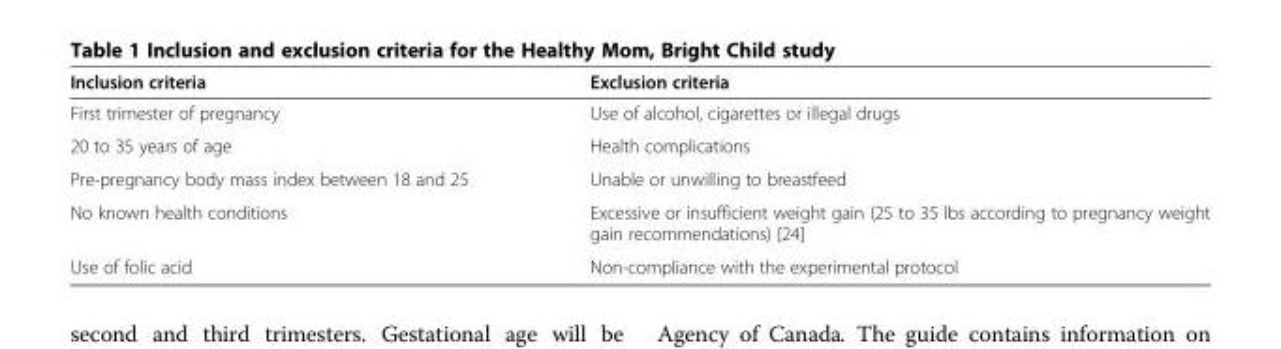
<table><thead><tr><td>Inclusion criteria</td><td>Exclusion criteria</td></tr></thead><tbody><tr><td>First trimester of pregnancy</td><td>Use of alcohol, cigarettes or illegal drugs</td></tr><tr><td>20 to 35 years of age</td><td>Health complications</td></tr><tr><td>Pre-pregnancy body mass index between 18 and 25</td><td>Unable or unwilling to breastfeed</td></tr><tr><td>No known health conditions</td><td>Excessive or insufficient weight gain (25 to 35 lbs according to pregnancy weight gain recommendations) [24]</td></tr><tr><td>Use of folic acid</td><td>Non-compliance with the experimental protocol</td></tr></tbody></table>